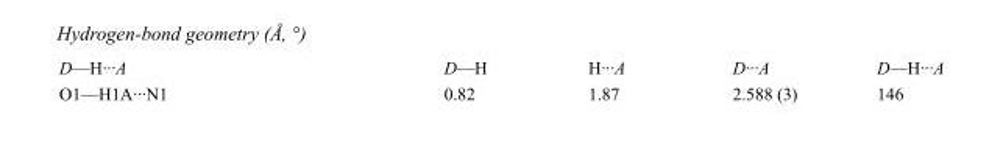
<table><tbody><tr><td>D—H···A</td><td>D—H</td><td>H···A</td><td>D···A</td><td>D—H···A</td></tr><tr><td>O1—H1A···N1</td><td>0.82</td><td>1.87</td><td>2.588 (3)</td><td>146</td></tr></tbody></table>